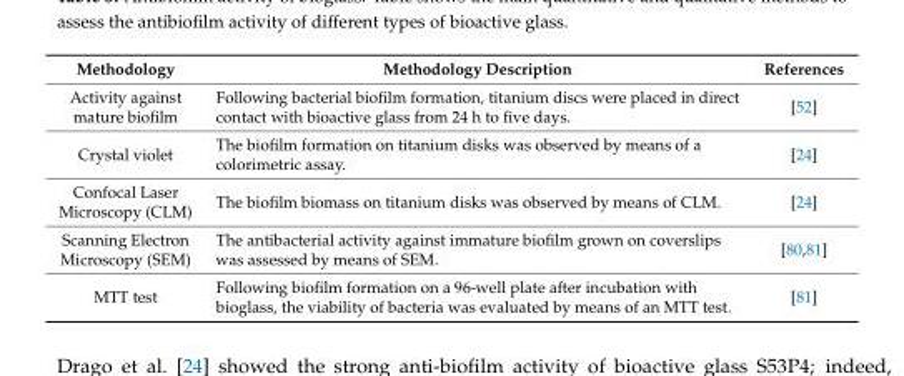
<table><thead><tr><td>Methodology</td><td>Methodology Description</td><td>References</td></tr></thead><tbody><tr><td>Activity against mature biofilm</td><td>Following bacterial biofilm formation, titanium discs were placed in direct contact with bioactive glass from 24 h to five days.</td><td>[52]</td></tr><tr><td>Crystal violet</td><td>The biofilm formation on titanium disks was observed by means of a colorimetric assay.</td><td>[24]</td></tr><tr><td>Confocal Laser Microscopy (CLM)</td><td>The biofilm biomass on titanium disks was observed by means of CLM.</td><td>[24]</td></tr><tr><td>Scanning Electron Microscopy (SEM)</td><td>The antibacterial activity against immature biofilm grown on coverslips was assessed by means of SEM.</td><td>[80,81]</td></tr><tr><td>MTT test</td><td>Following biofilm formation on a 96-well plate after incubation with bioglass, the viability of bacteria was evaluated by means of an MTT test.</td><td>[81]</td></tr></tbody></table>